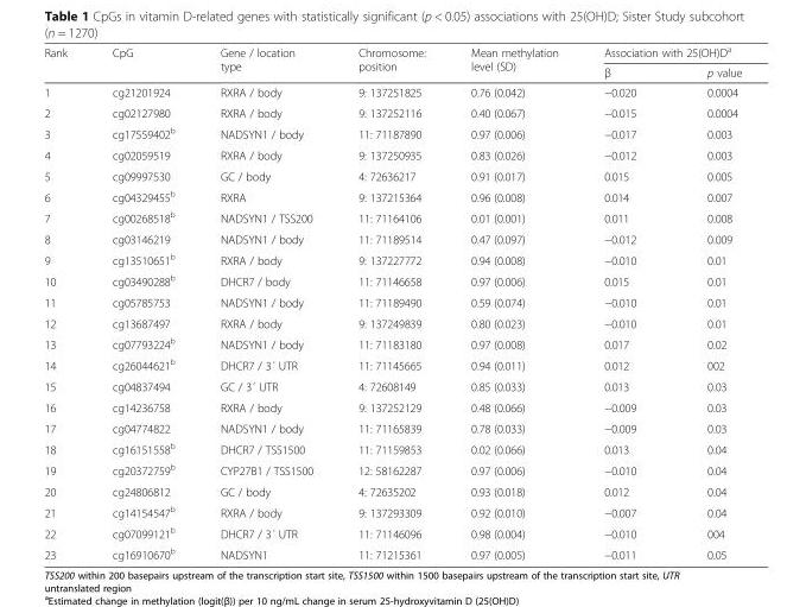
<table><thead><tr><td rowspan="2">Rank</td><td rowspan="2">CpG</td><td rowspan="2">Gene / location type</td><td rowspan="2">Chromosome: position</td><td rowspan="2">Mean methylation level (SD)</td><td colspan="2">Association with 25(OH)D<sup>a</sup></td></tr><tr><td>β</td><td>p value</td></tr></thead><tbody><tr><td>1</td><td>cg21201924</td><td>RXRA / body</td><td>9: 137251825</td><td>0.76 (0.042)</td><td>−0.020</td><td>0.0004</td></tr><tr><td>2</td><td>cg02127980</td><td>RXRA / body</td><td>9: 137252116</td><td>0.40 (0.067)</td><td>−0.015</td><td>0.0004</td></tr><tr><td>3</td><td>cg17559402<sup>b</sup></td><td>NADSYN1 / body</td><td>11: 71187890</td><td>0.97 (0.006)</td><td>−0.017</td><td>0.003</td></tr><tr><td>4</td><td>cg02059519</td><td>RXRA / body</td><td>9: 137250935</td><td>0.83 (0.026)</td><td>−0.012</td><td>0.003</td></tr><tr><td>5</td><td>cg09997530</td><td>GC / body</td><td>4: 72636217</td><td>0.91 (0.017)</td><td>0.015</td><td>0.005</td></tr><tr><td>6</td><td>cg04329455<sup>b</sup></td><td>RXRA</td><td>9: 137215364</td><td>0.96 (0.008)</td><td>0.014</td><td>0.007</td></tr><tr><td>7</td><td>cg00268518<sup>b</sup></td><td>NADSYN1 / TSS200</td><td>11: 71164106</td><td>0.01 (0.001)</td><td>0.011</td><td>0.008</td></tr><tr><td>8</td><td>cg03146219</td><td>NADSYN1 / body</td><td>11: 71189514</td><td>0.47 (0.097)</td><td>−0.012</td><td>0.009</td></tr><tr><td>9</td><td>cg13510651<sup>b</sup></td><td>RXRA / body</td><td>9: 137227772</td><td>0.94 (0.008)</td><td>−0.010</td><td>0.01</td></tr><tr><td>10</td><td>cg03490288<sup>b</sup></td><td>DHCR7 / body</td><td>11: 71146658</td><td>0.97 (0.006)</td><td>0.015</td><td>0.01</td></tr><tr><td>11</td><td>cg05785753</td><td>NADSYN1 / body</td><td>11: 71189490</td><td>0.59 (0.074)</td><td>−0.010</td><td>0.01</td></tr><tr><td>12</td><td>cg13687497</td><td>RXRA / body</td><td>9: 137249839</td><td>0.80 (0.023)</td><td>−0.010</td><td>0.01</td></tr><tr><td>13</td><td>cg07793224<sup>b</sup></td><td>NADSYN1 / body</td><td>11: 71183180</td><td>0.97 (0.008)</td><td>0.017</td><td>0.02</td></tr><tr><td>14</td><td>cg26044621<sup>b</sup></td><td>DHCR7 / 3´ UTR</td><td>11: 71145665</td><td>0.94 (0.011)</td><td>0.012</td><td>002</td></tr><tr><td>15</td><td>cg04837494</td><td>GC / 3´ UTR</td><td>4: 72608149</td><td>0.85 (0.033)</td><td>0.013</td><td>0.03</td></tr><tr><td>16</td><td>cg14236758</td><td>RXRA / body</td><td>9: 137252129</td><td>0.48 (0.066)</td><td>−0.009</td><td>0.03</td></tr><tr><td>17</td><td>cg04774822</td><td>NADSYN1 / body</td><td>11: 71165839</td><td>0.78 (0.033)</td><td>−0.009</td><td>0.03</td></tr><tr><td>18</td><td>cg16151558<sup>b</sup></td><td>DHCR7 / TSS1500</td><td>11: 71159853</td><td>0.02 (0.066)</td><td>0.013</td><td>0.04</td></tr><tr><td>19</td><td>cg20372759<sup>b</sup></td><td>CYP27B1 / TSS1500</td><td>12: 58162287</td><td>0.97 (0.006)</td><td>−0.010</td><td>0.04</td></tr><tr><td>20</td><td>cg24806812</td><td>GC / body</td><td>4: 72635202</td><td>0.93 (0.018)</td><td>0.012</td><td>0.04</td></tr><tr><td>21</td><td>cg14154547<sup>b</sup></td><td>RXRA / body</td><td>9: 137293309</td><td>0.92 (0.010)</td><td>−0.007</td><td>0.04</td></tr><tr><td>22</td><td>cg07099121<sup>b</sup></td><td>DHCR7 / 3´ UTR</td><td>11: 71146096</td><td>0.98 (0.004)</td><td>−0.010</td><td>004</td></tr><tr><td>23</td><td>cg16910670<sup>b</sup></td><td>NADSYN1</td><td>11: 71215361</td><td>0.97 (0.005)</td><td>−0.011</td><td>0.05</td></tr></tbody></table>